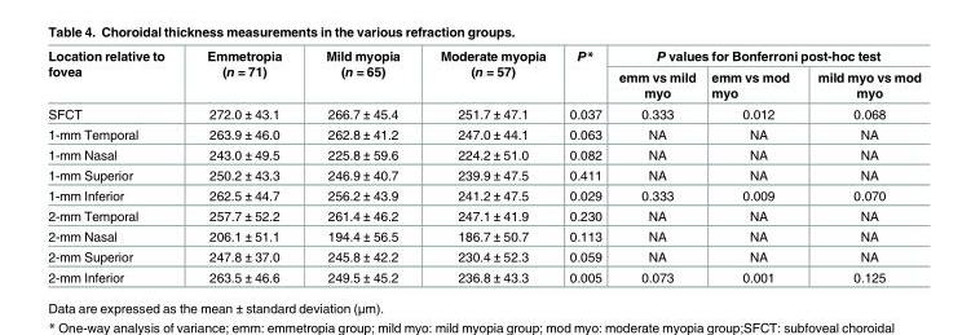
<table><thead><tr><td rowspan="2">Location relative to fovea</td><td rowspan="2">Emmetropia (n = 71)</td><td rowspan="2">Mild myopia (n = 65)</td><td rowspan="2">Moderate myopia (n = 57)</td><td rowspan="2">P*</td><td colspan="3">P values for Bonferroni post-hoc test</td></tr><tr><td>emm vs mild myo</td><td>emm vs mod myo</td><td>mild myo vs mod myo</td></tr></thead><tbody><tr><td>SFCT</td><td>272.0 ± 43.1</td><td>266.7 ± 45.4</td><td>251.7 ± 47.1</td><td>0.037</td><td>0.333</td><td>0.012</td><td>0.068</td></tr><tr><td>1-mm Temporal</td><td>263.9 ± 46.0</td><td>262.8 ± 41.2</td><td>247.0 ± 44.1</td><td>0.063</td><td>NA</td><td>NA</td><td>NA</td></tr><tr><td>1-mm Nasal</td><td>243.0 ± 49.5</td><td>225.8 ± 59.6</td><td>224.2 ± 51.0</td><td>0.082</td><td>NA</td><td>NA</td><td>NA</td></tr><tr><td>1-mm Superior</td><td>250.2 ± 43.3</td><td>246.9 ± 40.7</td><td>239.9 ± 47.5</td><td>0.411</td><td>NA</td><td>NA</td><td>NA</td></tr><tr><td>1-mm Inferior</td><td>262.5 ± 44.7</td><td>256.2 ± 43.9</td><td>241.2 ± 47.5</td><td>0.029</td><td>0.333</td><td>0.009</td><td>0.070</td></tr><tr><td>2-mm Temporal</td><td>257.7 ± 52.2</td><td>261.4 ± 46.2</td><td>247.1 ± 41.9</td><td>0.230</td><td>NA</td><td>NA</td><td>NA</td></tr><tr><td>2-mm Nasal</td><td>206.1 ± 51.1</td><td>194.4 ± 56.5</td><td>186.7 ± 50.7</td><td>0.113</td><td>NA</td><td>NA</td><td>NA</td></tr><tr><td>2-mm Superior</td><td>247.8 ± 37.0</td><td>245.8 ± 42.2</td><td>230.4 ± 52.3</td><td>0.059</td><td>NA</td><td>NA</td><td>NA</td></tr><tr><td>2-mm Inferior</td><td>263.5 ± 46.6</td><td>249.5 ± 45.2</td><td>236.8 ± 43.3</td><td>0.005</td><td>0.073</td><td>0.001</td><td>0.125</td></tr></tbody></table>